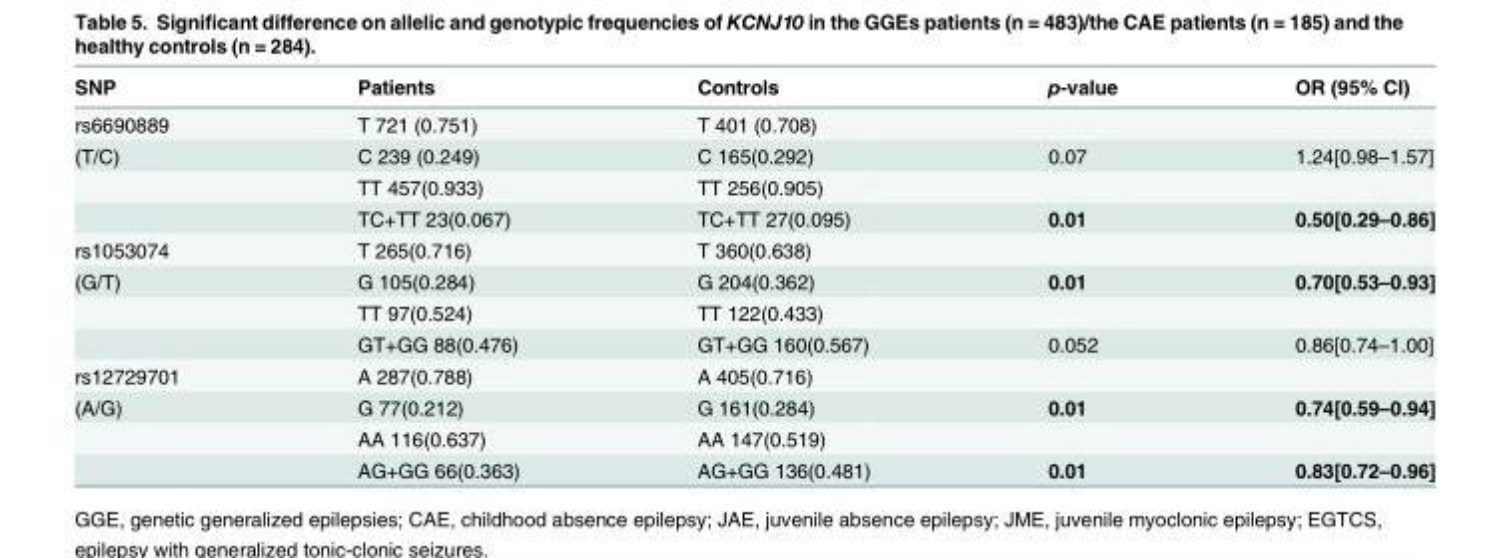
<table><thead><tr><td>SNP</td><td>Patients</td><td>Controls</td><td>p-value</td><td>OR (95% CI)</td></tr></thead><tbody><tr><td>rs6690889</td><td>T 721 (0.751)</td><td>T 401 (0.708)</td><td></td><td></td></tr><tr><td rowspan="3">(T/C)</td><td>C 239 (0.249)</td><td>C 165(0.292)</td><td>0.07</td><td>1.24[0.98–1.57]</td></tr><tr><td>TT 457(0.933)</td><td>TT 256(0.905)</td><td></td><td></td></tr><tr><td>TC+TT 23(0.067)</td><td>TC+TT 27(0.095)</td><td>0.01</td><td>0.50[0.29–0.86]</td></tr><tr><td>rs1053074</td><td>T 265(0.716)</td><td>T 360(0.638)</td><td></td><td></td></tr><tr><td rowspan="3">(G/T)</td><td>G 105(0.284)</td><td>G 204(0.362)</td><td>0.01</td><td>0.70[0.53–0.93]</td></tr><tr><td>TT 97(0.524)</td><td>TT 122(0.433)</td><td></td><td></td></tr><tr><td>GT+GG 88(0.476)</td><td>GT+GG 160(0.567)</td><td>0.052</td><td>0.86[0.74–1.00]</td></tr><tr><td>rs12729701</td><td>A 287(0.788)</td><td>A 405(0.716)</td><td></td><td></td></tr><tr><td rowspan="3">(A/G)</td><td>G 77(0.212)</td><td>G 161(0.284)</td><td>0.01</td><td>0.74[0.59–0.94]</td></tr><tr><td>AA 116(0.637)</td><td>AA 147(0.519)</td><td></td><td></td></tr><tr><td>AG+GG 66(0.363)</td><td>AG+GG 136(0.481)</td><td>0.01</td><td>0.83[0.72–0.96]</td></tr></tbody></table>